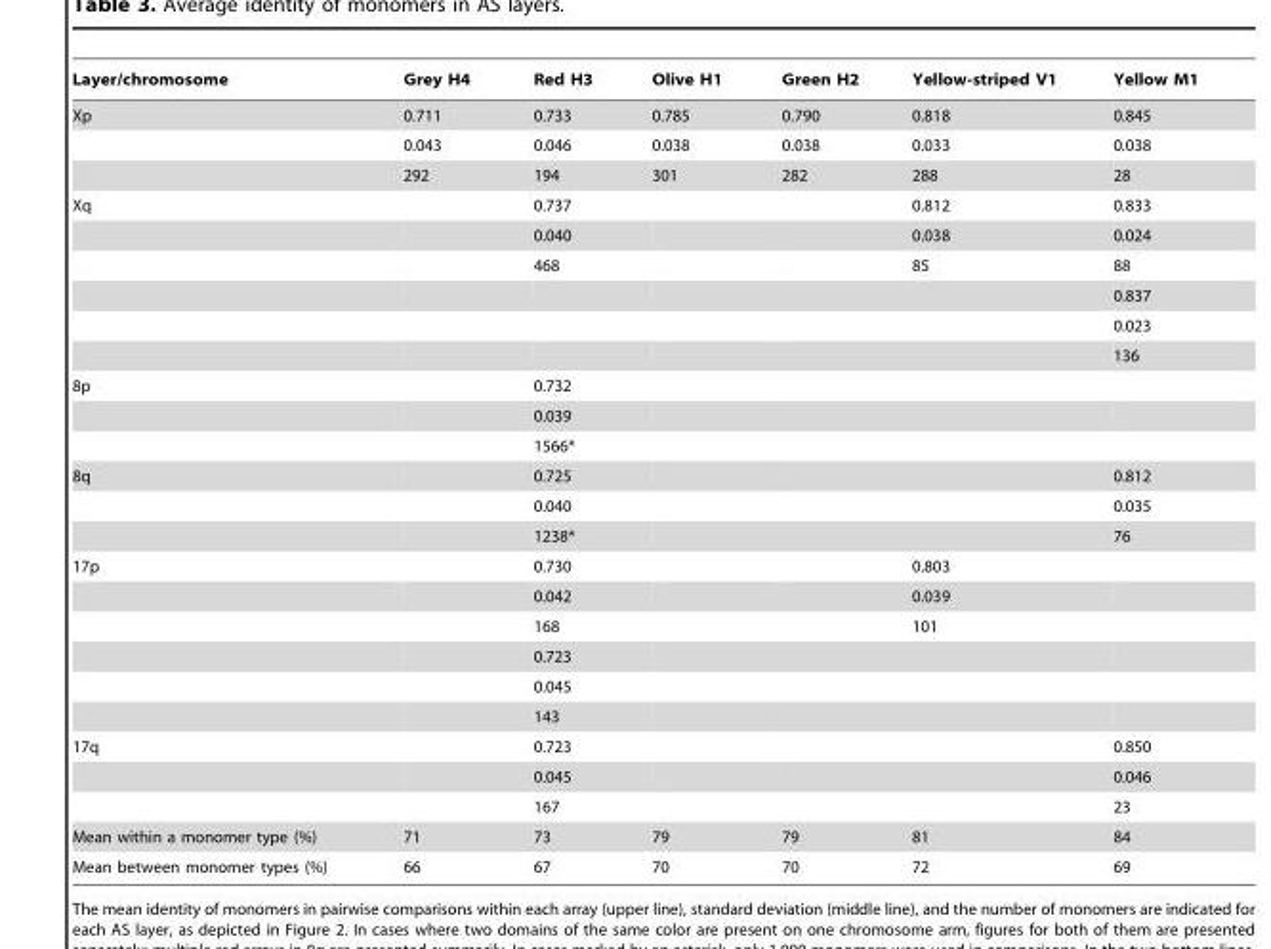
<table><thead><tr><td>Layer/chromosome</td><td>Grey H4</td><td>Red H3</td><td>Olive H1</td><td>Green H2</td><td>Yellow-striped V1</td><td>Yellow M1</td></tr></thead><tbody><tr><td rowspan="3">Xp</td><td>0.711</td><td>0.733</td><td>0.785</td><td>0.790</td><td>0.818</td><td>0.845</td></tr><tr><td>0.043</td><td>0.046</td><td>0.038</td><td>0.038</td><td>0.033</td><td>0.038</td></tr><tr><td>292</td><td>194</td><td>301</td><td>282</td><td>288</td><td>28</td></tr><tr><td rowspan="6">Xq</td><td></td><td>0.737</td><td></td><td></td><td>0.812</td><td>0.833</td></tr><tr><td></td><td>0.040</td><td></td><td></td><td>0.038</td><td>0.024</td></tr><tr><td></td><td>468</td><td></td><td></td><td>85</td><td>88</td></tr><tr><td></td><td></td><td></td><td></td><td></td><td>0.837</td></tr><tr><td></td><td></td><td></td><td></td><td></td><td>0.023</td></tr><tr><td></td><td></td><td></td><td></td><td></td><td>136</td></tr><tr><td rowspan="3">8p</td><td></td><td>0.732</td><td></td><td></td><td></td><td></td></tr><tr><td></td><td>0.039</td><td></td><td></td><td></td><td></td></tr><tr><td></td><td>1566*</td><td></td><td></td><td></td><td></td></tr><tr><td rowspan="3">8q</td><td></td><td>0.725</td><td></td><td></td><td></td><td>0.812</td></tr><tr><td></td><td>0.040</td><td></td><td></td><td></td><td>0.035</td></tr><tr><td></td><td>1238*</td><td></td><td></td><td></td><td>76</td></tr><tr><td rowspan="6">17p</td><td></td><td>0.730</td><td></td><td></td><td>0.803</td><td></td></tr><tr><td></td><td>0.042</td><td></td><td></td><td>0.039</td><td></td></tr><tr><td></td><td>168</td><td></td><td></td><td>101</td><td></td></tr><tr><td></td><td>0.723</td><td></td><td></td><td></td><td></td></tr><tr><td></td><td>0.045</td><td></td><td></td><td></td><td></td></tr><tr><td></td><td>143</td><td></td><td></td><td></td><td></td></tr><tr><td rowspan="3">17q</td><td></td><td>0.723</td><td></td><td></td><td></td><td>0.850</td></tr><tr><td></td><td>0.045</td><td></td><td></td><td></td><td>0.046</td></tr><tr><td></td><td>167</td><td></td><td></td><td></td><td>23</td></tr><tr><td>Mean within a monomer type (%)</td><td>71</td><td>73</td><td>79</td><td>79</td><td>81</td><td>84</td></tr><tr><td>Mean between monomer types (%)</td><td>66</td><td>67</td><td>70</td><td>70</td><td>72</td><td>69</td></tr></tbody></table>